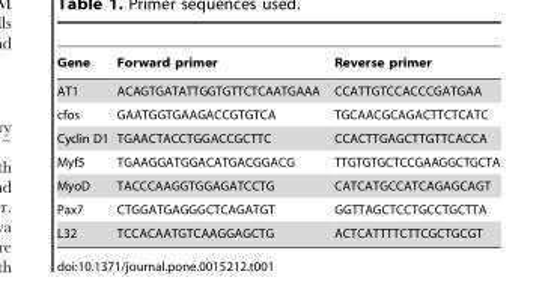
<table><thead><tr><td>Gene</td><td>Forward primer</td><td>Reverse primer</td></tr></thead><tbody><tr><td>AT1</td><td>ACAGTGATATTGGTGTTCTCAATGAAA</td><td>CCATTGTCCACCCGATGAA</td></tr><tr><td>cfos</td><td>GAATGGTGAAGACCGTGTCA</td><td>TGCAACGCAGACTTCTCATC</td></tr><tr><td>Cyclin D1</td><td>TGAACTACCTGGACCGCTTC</td><td>CCACTTGAGCTTGTTCACCA</td></tr><tr><td>Myf5</td><td>TGAAGGATGGACATGACGGACG</td><td>TTGTGTGCTCCGAAGGCTGCTA</td></tr><tr><td>MyoD</td><td>TACCCAAGGTGGAGATCCTG</td><td>CATCATGCCATCAGAGCAGT</td></tr><tr><td>Pax7</td><td>CTGGATGAGGGCTCAGATGT</td><td>GGTTAGCTCCTGCCTGCTTA</td></tr><tr><td>L32</td><td>TCCACAATGTCAAGGAGCTG</td><td>ACTCATTTTCTTCGCTGCGT</td></tr></tbody></table>